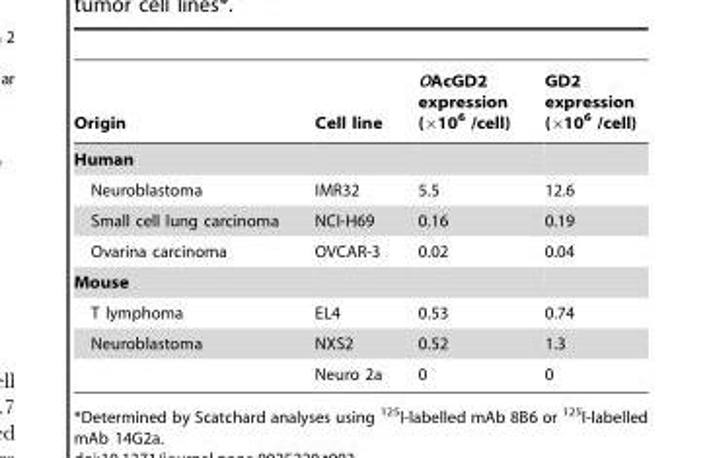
<table><thead><tr><td>Origin</td><td>Cell line</td><td>OAcGD2 expression (×10<sup>6</sup> /cell)</td><td>GD2 expression (×10<sup>6</sup> /cell)</td></tr></thead><tbody><tr><td colspan="4">Human</td></tr><tr><td>Neuroblastoma</td><td>IMR32</td><td>5.5</td><td>12.6</td></tr><tr><td>Small cell lung carcinoma</td><td>NCI-H69</td><td>0.16</td><td>0.19</td></tr><tr><td>Ovarina carcinoma</td><td>OVCAR-3</td><td>0.02</td><td>0.04</td></tr><tr><td colspan="4">Mouse</td></tr><tr><td>T lymphoma</td><td>EL4</td><td>0.53</td><td>0.74</td></tr><tr><td rowspan="2">Neuroblastoma</td><td>NXS2</td><td>0.52</td><td>1.3</td></tr><tr><td>Neuro 2a</td><td>0</td><td>0</td></tr></tbody></table>